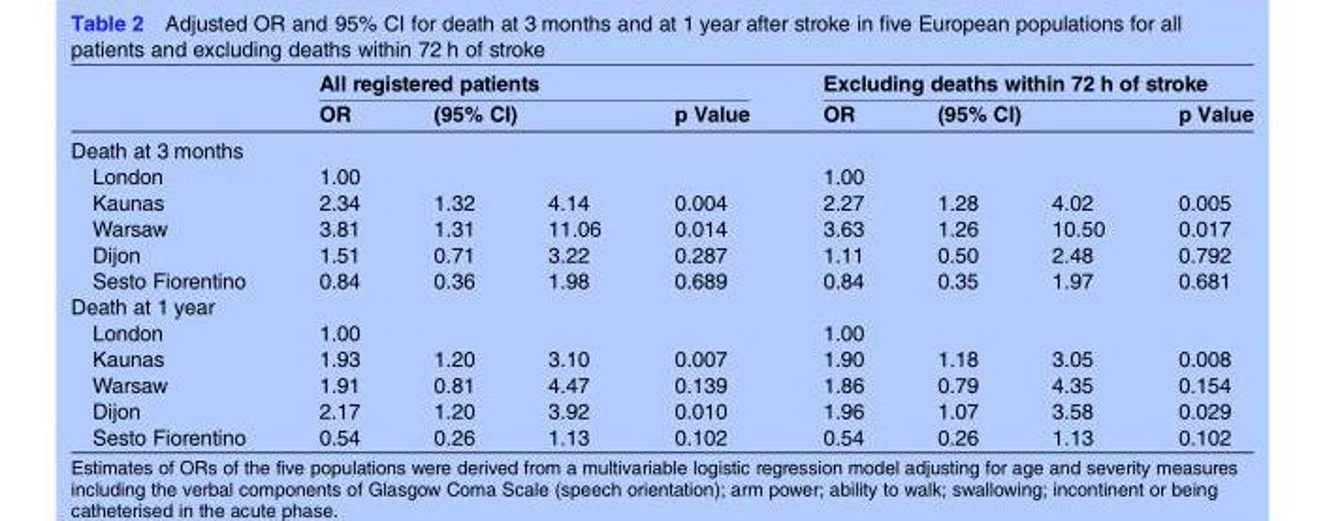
<table><thead><tr><td rowspan="2"></td><td colspan="4">All registered patients</td><td colspan="4">Excluding deaths within 72 h of stroke</td></tr><tr><td>OR</td><td colspan="2">(95% CI)</td><td>p Value</td><td>OR</td><td colspan="2">(95% CI)</td><td>p Value</td></tr><tr><td colspan="9">Death at 3 months</td></tr><tr><td>London</td><td>1.00</td><td></td><td></td><td></td><td>1.00</td><td></td><td></td><td></td></tr></thead><tbody><tr><td>Kaunas</td><td>2.34</td><td>1.32</td><td>4.14</td><td>0.004</td><td>2.27</td><td>1.28</td><td>4.02</td><td>0.005</td></tr><tr><td>Warsaw</td><td>3.81</td><td>1.31</td><td>11.06</td><td>0.014</td><td>3.63</td><td>1.26</td><td>10.50</td><td>0.017</td></tr><tr><td>Dijon</td><td>1.51</td><td>0.71</td><td>3.22</td><td>0.287</td><td>1.11</td><td>0.50</td><td>2.48</td><td>0.792</td></tr><tr><td>Sesto Fiorentino</td><td>0.84</td><td>0.36</td><td>1.98</td><td>0.689</td><td>0.84</td><td>0.35</td><td>1.97</td><td>0.681</td></tr><tr><td colspan="9">Death at 1 year</td></tr><tr><td>London</td><td>1.00</td><td></td><td></td><td></td><td>1.00</td><td></td><td></td><td></td></tr><tr><td>Kaunas</td><td>1.93</td><td>1.20</td><td>3.10</td><td>0.007</td><td>1.90</td><td>1.18</td><td>3.05</td><td>0.008</td></tr><tr><td>Warsaw</td><td>1.91</td><td>0.81</td><td>4.47</td><td>0.139</td><td>1.86</td><td>0.79</td><td>4.35</td><td>0.154</td></tr><tr><td>Dijon</td><td>2.17</td><td>1.20</td><td>3.92</td><td>0.010</td><td>1.96</td><td>1.07</td><td>3.58</td><td>0.029</td></tr><tr><td>Sesto Fiorentino</td><td>0.54</td><td>0.26</td><td>1.13</td><td>0.102</td><td>0.54</td><td>0.26</td><td>1.13</td><td>0.102</td></tr></tbody></table>